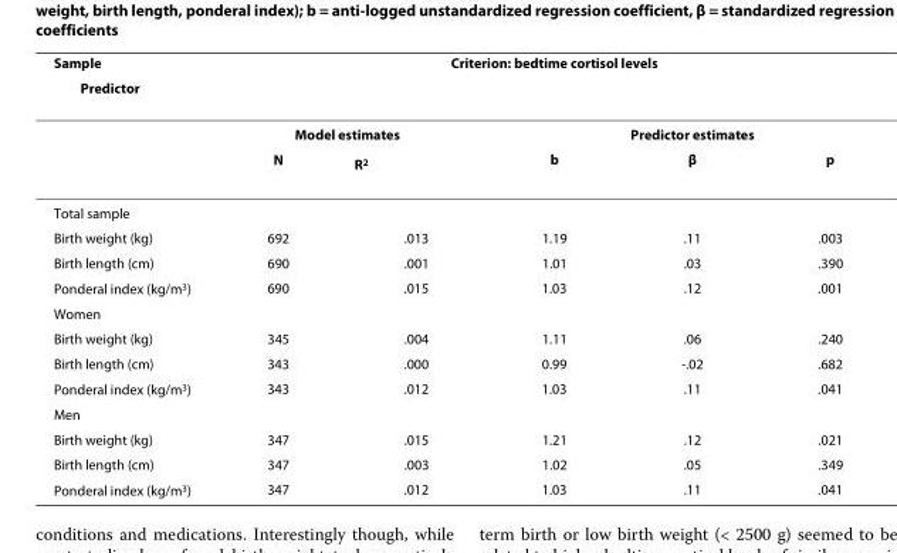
<table><thead><tr><td rowspan="2">Sample Predictor</td><td colspan="5">Criterion: bedtime cortisol levels</td></tr><tr><td></td><td></td><td></td><td></td><td></td></tr></thead><tbody><tr><td></td><td colspan="2">Model estimates</td><td colspan="3">Predictor estimates</td></tr><tr><td></td><td>N</td><td>R<sup>2</sup></td><td>b</td><td>β</td><td>p</td></tr><tr><td colspan="6">Total sample</td></tr><tr><td>Birth weight (kg)</td><td>692</td><td>.013</td><td>1.19</td><td>.11</td><td>.003</td></tr><tr><td>Birth length (cm)</td><td>690</td><td>.001</td><td>1.01</td><td>.03</td><td>.390</td></tr><tr><td>Ponderal index (kg/m<sup>3</sup>)</td><td>690</td><td>.015</td><td>1.03</td><td>.12</td><td>.001</td></tr><tr><td colspan="6">Women</td></tr><tr><td>Birth weight (kg)</td><td>345</td><td>.004</td><td>1.11</td><td>.06</td><td>.240</td></tr><tr><td>Birth length (cm)</td><td>343</td><td>.000</td><td>0.99</td><td>-.02</td><td>.682</td></tr><tr><td>Ponderal index (kg/m<sup>3</sup>)</td><td>343</td><td>.012</td><td>1.03</td><td>.11</td><td>.041</td></tr><tr><td colspan="6">Men</td></tr><tr><td>Birth weight (kg)</td><td>347</td><td>.015</td><td>1.21</td><td>.12</td><td>.021</td></tr><tr><td>Birth length (cm)</td><td>347</td><td>.003</td><td>1.02</td><td>.05</td><td>.349</td></tr><tr><td>Ponderal index (kg/m<sup>3</sup>)</td><td>347</td><td>.012</td><td>1.03</td><td>.11</td><td>.041</td></tr></tbody></table>